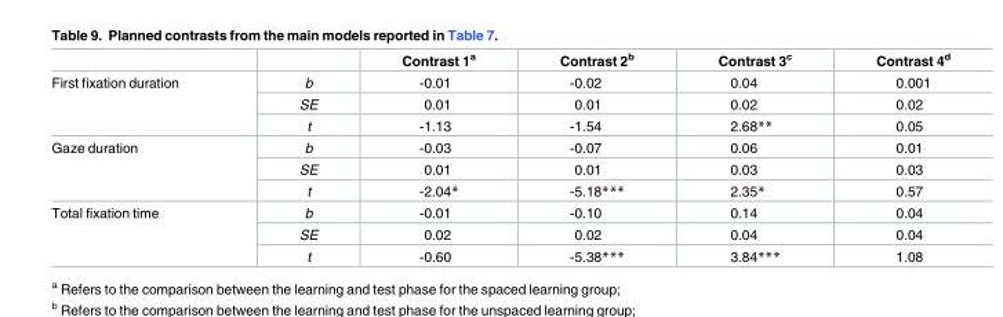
<table><thead><tr><td></td><td></td><td>Contrast 1<sup>a</sup></td><td>Contrast 2<sup>b</sup></td><td>Contrast 3<sup>c</sup></td><td>Contrast 4<sup>d</sup></td></tr></thead><tbody><tr><td rowspan="3">First fixation duration</td><td>b</td><td>-0.01</td><td>-0.02</td><td>0.04</td><td>0.001</td></tr><tr><td>SE</td><td>0.01</td><td>0.01</td><td>0.02</td><td>0.02</td></tr><tr><td>t</td><td>-1.13</td><td>-1.54</td><td>2.68**</td><td>0.05</td></tr><tr><td rowspan="3">Gaze duration</td><td>b</td><td>-0.03</td><td>-0.07</td><td>0.06</td><td>0.01</td></tr><tr><td>SE</td><td>0.01</td><td>0.01</td><td>0.03</td><td>0.03</td></tr><tr><td>t</td><td>-2.04*</td><td>-5.18***</td><td>2.35*</td><td>0.57</td></tr><tr><td rowspan="3">Total fixation time</td><td>b</td><td>-0.01</td><td>-0.10</td><td>0.14</td><td>0.04</td></tr><tr><td>SE</td><td>0.02</td><td>0.02</td><td>0.04</td><td>0.04</td></tr><tr><td>t</td><td>-0.60</td><td>-5.38***</td><td>3.84***</td><td>1.08</td></tr></tbody></table>